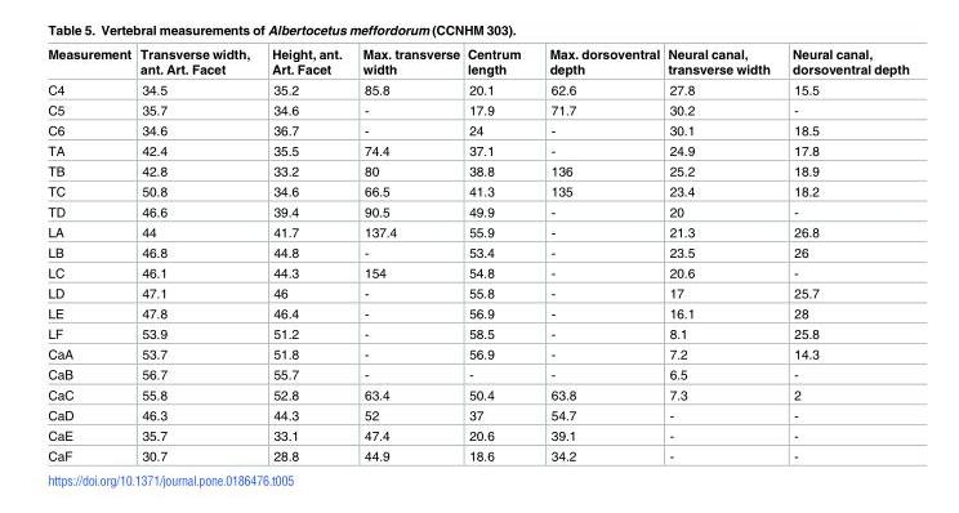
<table><thead><tr><td>Measurement</td><td>Transverse width, ant. Art. Facet</td><td>Height, ant. Art. Facet</td><td>Max. transverse width</td><td>Centrum length</td><td>Max. dorsoventral depth</td><td>Neural canal, transverse width</td><td>Neural canal, dorsoventral depth</td></tr></thead><tbody><tr><td>C4</td><td>34.5</td><td>35.2</td><td>85.8</td><td>20.1</td><td>62.6</td><td>27.8</td><td>15.5</td></tr><tr><td>C5</td><td>35.7</td><td>34.6</td><td>-</td><td>17.9</td><td>71.7</td><td>30.2</td><td>-</td></tr><tr><td>C6</td><td>34.6</td><td>36.7</td><td>-</td><td>24</td><td>-</td><td>30.1</td><td>18.5</td></tr><tr><td>TA</td><td>42.4</td><td>35.5</td><td>74.4</td><td>37.1</td><td>-</td><td>24.9</td><td>17.8</td></tr><tr><td>TB</td><td>42.8</td><td>33.2</td><td>80</td><td>38.8</td><td>136</td><td>25.2</td><td>18.9</td></tr><tr><td>TC</td><td>50.8</td><td>34.6</td><td>66.5</td><td>41.3</td><td>135</td><td>23.4</td><td>18.2</td></tr><tr><td>TD</td><td>46.6</td><td>39.4</td><td>90.5</td><td>49.9</td><td>-</td><td>20</td><td>-</td></tr><tr><td>LA</td><td>44</td><td>41.7</td><td>137.4</td><td>55.9</td><td>-</td><td>21.3</td><td>26.8</td></tr><tr><td>LB</td><td>46.8</td><td>44.8</td><td>-</td><td>53.4</td><td>-</td><td>23.5</td><td>26</td></tr><tr><td>LC</td><td>46.1</td><td>44.3</td><td>154</td><td>54.8</td><td>-</td><td>20.6</td><td>-</td></tr><tr><td>LD</td><td>47.1</td><td>46</td><td>-</td><td>55.8</td><td>-</td><td>17</td><td>25.7</td></tr><tr><td>LE</td><td>47.8</td><td>46.4</td><td>-</td><td>56.9</td><td>-</td><td>16.1</td><td>28</td></tr><tr><td>LF</td><td>53.9</td><td>51.2</td><td>-</td><td>58.5</td><td>-</td><td>8.1</td><td>25.8</td></tr><tr><td>CaA</td><td>53.7</td><td>51.8</td><td>-</td><td>56.9</td><td>-</td><td>7.2</td><td>14.3</td></tr><tr><td>CaB</td><td>56.7</td><td>55.7</td><td>-</td><td>-</td><td>-</td><td>6.5</td><td>-</td></tr><tr><td>CaC</td><td>55.8</td><td>52.8</td><td>63.4</td><td>50.4</td><td>63.8</td><td>7.3</td><td>2</td></tr><tr><td>CaD</td><td>46.3</td><td>44.3</td><td>52</td><td>37</td><td>54.7</td><td>-</td><td>-</td></tr><tr><td>CaE</td><td>35.7</td><td>33.1</td><td>47.4</td><td>20.6</td><td>39.1</td><td>-</td><td>-</td></tr><tr><td>CaF</td><td>30.7</td><td>28.8</td><td>44.9</td><td>18.6</td><td>34.2</td><td>-</td><td>-</td></tr></tbody></table>